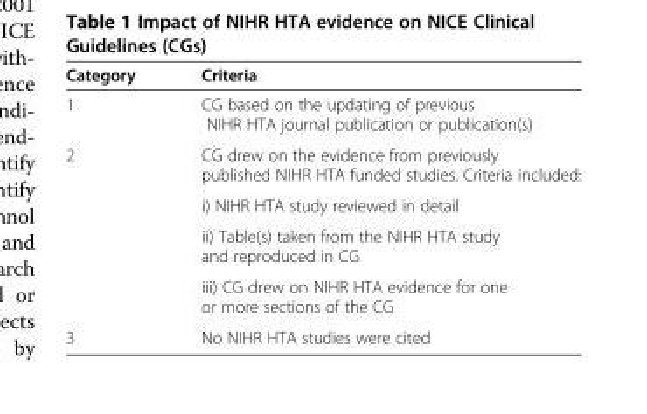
<table><thead><tr><td>Category</td><td>Criteria</td></tr></thead><tbody><tr><td>1</td><td>CG based on the updating of previous NIHR HTA journal publication or publication(s)</td></tr><tr><td rowspan="4">2</td><td>CG drew on the evidence from previously published NIHR HTA funded studies. Criteria included:</td></tr><tr><td>i) NIHR HTA study reviewed in detail</td></tr><tr><td>ii) Table(s) taken from the NIHR HTA study and reproduced in CG</td></tr><tr><td>iii) CG drew on NIHR HTA evidence for one or more sections of the CG</td></tr><tr><td>3</td><td>No NIHR HTA studies were cited</td></tr></tbody></table>